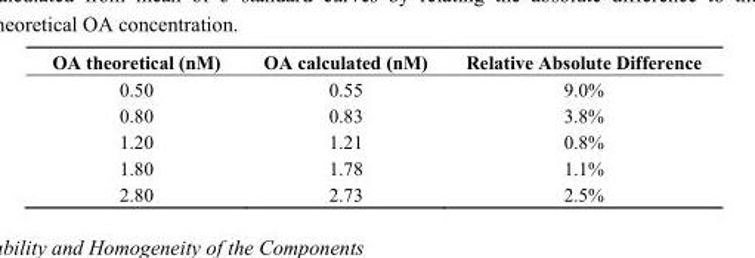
<table><thead><tr><td>OA theoretical (nM)</td><td>OA calculated (nM)</td><td>Relative Absolute Difference</td></tr></thead><tbody><tr><td>0.50</td><td>0.55</td><td>9.0%</td></tr><tr><td>0.80</td><td>0.83</td><td>3.8%</td></tr><tr><td>1.20</td><td>1.21</td><td>0.8%</td></tr><tr><td>1.80</td><td>1.78</td><td>1.1%</td></tr><tr><td>2.80</td><td>2.73</td><td>2.5%</td></tr></tbody></table>